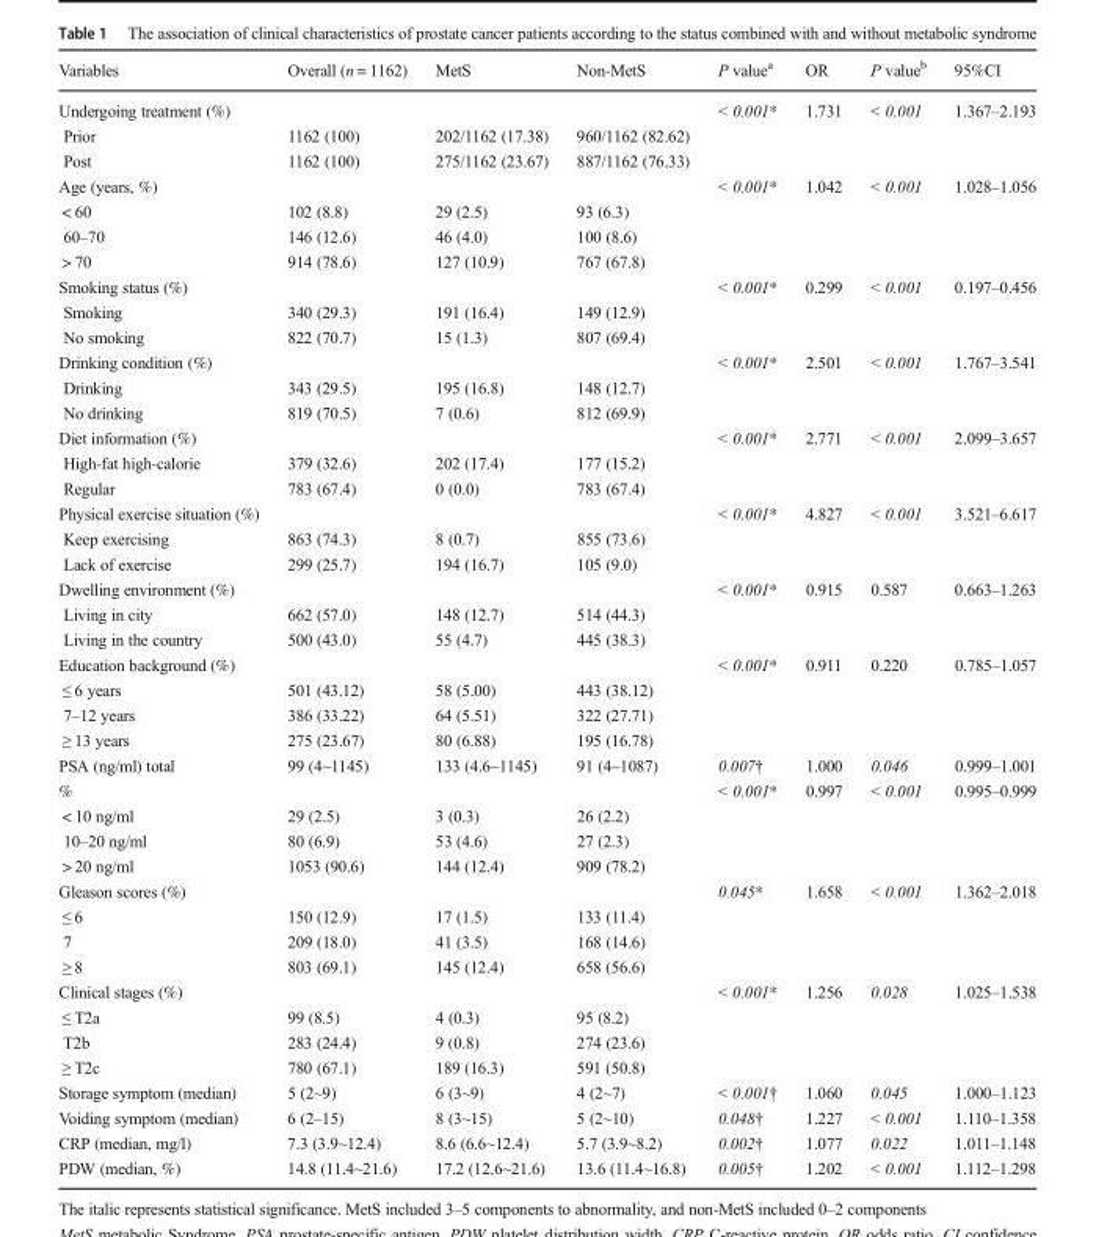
<table><thead><tr><td>Variables</td><td>Overall (n = 1162)</td><td>MetS</td><td>Non-MetS</td><td>P value<sup>a</sup></td><td>OR</td><td>P value<sup>b</sup></td><td>95%CI</td></tr></thead><tbody><tr><td>Undergoing treatment (%)</td><td></td><td></td><td></td><td>&lt; 0.001*</td><td>1.731</td><td>&lt; 0.001</td><td>1.367–2.193</td></tr><tr><td>Prior</td><td>1162 (100)</td><td>202/1162 (17.38)</td><td>960/1162 (82.62)</td><td></td><td></td><td></td><td></td></tr><tr><td>Post</td><td>1162 (100)</td><td>275/1162 (23.67)</td><td>887/1162 (76.33)</td><td></td><td></td><td></td><td></td></tr><tr><td>Age (years, %)</td><td></td><td></td><td></td><td>&lt; 0.001*</td><td>1.042</td><td>&lt; 0.001</td><td>1.028–1.056</td></tr><tr><td>&lt; 60</td><td>102 (8.8)</td><td>29 (2.5)</td><td>93 (6.3)</td><td rowspan="3"></td><td></td><td></td><td></td></tr><tr><td>60–70</td><td>146 (12.6)</td><td>46 (4.0)</td><td>100 (8.6)</td><td></td><td></td><td></td></tr><tr><td>&gt; 70</td><td>914 (78.6)</td><td>127 (10.9)</td><td>767 (67.8)</td><td></td><td></td><td></td></tr><tr><td>Smoking status (%)</td><td></td><td></td><td></td><td>&lt; 0.001*</td><td>0.299</td><td>&lt; 0.001</td><td>0.197–0.456</td></tr><tr><td>Smoking</td><td>340 (29.3)</td><td>191 (16.4)</td><td>149 (12.9)</td><td rowspan="2"></td><td></td><td></td><td></td></tr><tr><td>No smoking</td><td>822 (70.7)</td><td>15 (1.3)</td><td>807 (69.4)</td><td></td><td></td><td></td></tr><tr><td>Drinking condition (%)</td><td></td><td></td><td></td><td>&lt; 0.001*</td><td>2.501</td><td>&lt; 0.001</td><td>1.767–3.541</td></tr><tr><td>Drinking</td><td>343 (29.5)</td><td>195 (16.8)</td><td>148 (12.7)</td><td rowspan="2"></td><td></td><td></td><td></td></tr><tr><td>No drinking</td><td>819 (70.5)</td><td>7 (0.6)</td><td>812 (69.9)</td><td></td><td></td><td></td></tr><tr><td>Diet information (%)</td><td></td><td></td><td></td><td>&lt; 0.001*</td><td>2.771</td><td>&lt; 0.001</td><td>2.099–3.657</td></tr><tr><td>High-fat high-calorie</td><td>379 (32.6)</td><td>202 (17.4)</td><td>177 (15.2)</td><td rowspan="2"></td><td></td><td></td><td></td></tr><tr><td>Regular</td><td>783 (67.4)</td><td>0 (0.0)</td><td>783 (67.4)</td><td></td><td></td><td></td></tr><tr><td>Physical exercise situation (%)</td><td></td><td></td><td></td><td>&lt; 0.001*</td><td>4.827</td><td>&lt; 0.001</td><td>3.521–6.617</td></tr><tr><td>Keep exercising</td><td>863 (74.3)</td><td>8 (0.7)</td><td>855 (73.6)</td><td rowspan="2"></td><td></td><td></td><td></td></tr><tr><td>Lack of exercise</td><td>299 (25.7)</td><td>194 (16.7)</td><td>105 (9.0)</td><td></td><td></td><td></td></tr><tr><td>Dwelling environment (%)</td><td></td><td></td><td></td><td>&lt; 0.001*</td><td>0.915</td><td>0.587</td><td>0.663–1.263</td></tr><tr><td>Living in city</td><td>662 (57.0)</td><td>148 (12.7)</td><td>514 (44.3)</td><td rowspan="2"></td><td></td><td></td><td></td></tr><tr><td>Living in the country</td><td>500 (43.0)</td><td>55 (4.7)</td><td>445 (38.3)</td><td></td><td></td><td></td></tr><tr><td>Education background (%)</td><td></td><td></td><td></td><td>&lt; 0.001*</td><td>0.911</td><td>0.220</td><td>0.785–1.057</td></tr><tr><td>≤ 6 years</td><td>501 (43.12)</td><td>58 (5.00)</td><td>443 (38.12)</td><td></td><td></td><td></td><td></td></tr><tr><td>7–12 years</td><td>386 (33.22)</td><td>64 (5.51)</td><td>322 (27.71)</td><td></td><td></td><td></td><td></td></tr><tr><td>≥ 13 years</td><td>275 (23.67)</td><td>80 (6.88)</td><td>195 (16.78)</td><td></td><td></td><td></td><td></td></tr><tr><td>PSA (ng/ml) total</td><td>99 (4~1145)</td><td>133 (4.6~1145)</td><td>91 (4~1087)</td><td>0.007†</td><td>1.000</td><td>0.046</td><td>0.999–1.001</td></tr><tr><td>%</td><td></td><td></td><td></td><td>&lt; 0.001*</td><td>0.997</td><td>&lt; 0.001</td><td>0.995–0.999</td></tr><tr><td>&lt; 10 ng/ml</td><td>29 (2.5)</td><td>3 (0.3)</td><td>26 (2.2)</td><td rowspan="3"></td><td></td><td></td><td></td></tr><tr><td>10–20 ng/ml</td><td>80 (6.9)</td><td>53 (4.6)</td><td>27 (2.3)</td><td></td><td></td><td></td></tr><tr><td>&gt; 20 ng/ml</td><td>1053 (90.6)</td><td>144 (12.4)</td><td>909 (78.2)</td><td></td><td></td><td></td></tr><tr><td>Gleason scores (%)</td><td></td><td></td><td></td><td>0.045*</td><td>1.658</td><td>&lt; 0.001</td><td>1.362–2.018</td></tr><tr><td>≤ 6</td><td>150 (12.9)</td><td>17 (1.5)</td><td>133 (11.4)</td><td rowspan="3"></td><td></td><td></td><td></td></tr><tr><td>7</td><td>209 (18.0)</td><td>41 (3.5)</td><td>168 (14.6)</td><td></td><td></td><td></td></tr><tr><td>≥ 8</td><td>803 (69.1)</td><td>145 (12.4)</td><td>658 (56.6)</td><td></td><td></td><td></td></tr><tr><td>Clinical stages (%)</td><td></td><td></td><td></td><td>&lt; 0.001*</td><td>1.256</td><td>0.028</td><td>1.025–1.538</td></tr><tr><td>≤ T2a</td><td>99 (8.5)</td><td>4 (0.3)</td><td>95 (8.2)</td><td rowspan="3"></td><td></td><td></td><td></td></tr><tr><td>T2b</td><td>283 (24.4)</td><td>9 (0.8)</td><td>274 (23.6)</td><td></td><td></td><td></td></tr><tr><td>≥ T2c</td><td>780 (67.1)</td><td>189 (16.3)</td><td>591 (50.8)</td><td></td><td></td><td></td></tr><tr><td>Storage symptom (median)</td><td>5 (2~9)</td><td>6 (3~9)</td><td>4 (2~7)</td><td>&lt; 0.001†</td><td>1.060</td><td>0.045</td><td>1.000–1.123</td></tr><tr><td>Voiding symptom (median)</td><td>6 (2–15)</td><td>8 (3~15)</td><td>5 (2~10)</td><td>0.048†</td><td>1.227</td><td>&lt; 0.001</td><td>1.110–1.358</td></tr><tr><td>CRP (median, mg/l)</td><td>7.3 (3.9~12.4)</td><td>8.6 (6.6~12.4)</td><td>5.7 (3.9~8.2)</td><td>0.002†</td><td>1.077</td><td>0.022</td><td>1.011–1.148</td></tr><tr><td>PDW (median, %)</td><td>14.8 (11.4~21.6)</td><td>17.2 (12.6~21.6)</td><td>13.6 (11.4~16.8)</td><td>0.005†</td><td>1.202</td><td>&lt; 0.001</td><td>1.112–1.298</td></tr></tbody></table>